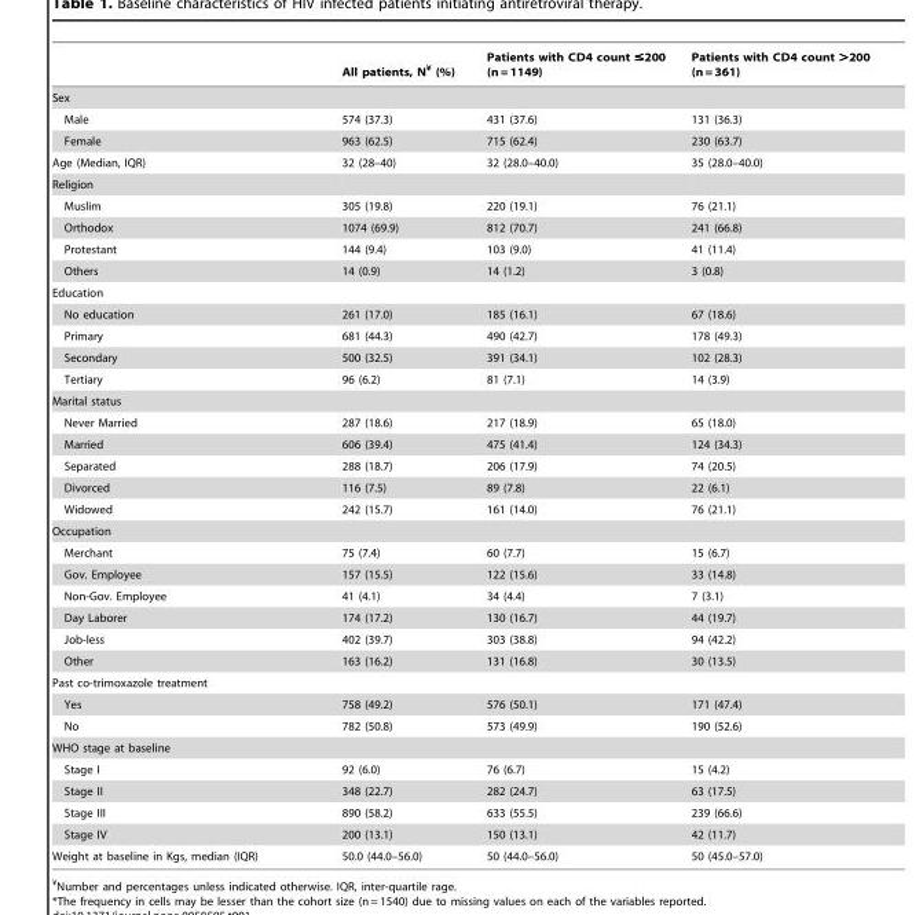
<table><thead><tr><td></td><td>All patients, N¥ (%)</td><td>Patients with CD4 count ≤200 (n = 1149)</td><td>Patients with CD4 count &gt;200 (n = 361)</td></tr></thead><tbody><tr><td colspan="4">Sex</td></tr><tr><td>Male</td><td>574 (37.3)</td><td>431 (37.6)</td><td>131 (36.3)</td></tr><tr><td>Female</td><td>963 (62.5)</td><td>715 (62.4)</td><td>230 (63.7)</td></tr><tr><td>Age (Median, IQR)</td><td>32 (28–40)</td><td>32 (28.0–40.0)</td><td>35 (28.0–40.0)</td></tr><tr><td colspan="4">Religion</td></tr><tr><td>Muslim</td><td>305 (19.8)</td><td>220 (19.1)</td><td>76 (21.1)</td></tr><tr><td>Orthodox</td><td>1074 (69.9)</td><td>812 (70.7)</td><td>241 (66.8)</td></tr><tr><td>Protestant</td><td>144 (9.4)</td><td>103 (9.0)</td><td>41 (11.4)</td></tr><tr><td>Others</td><td>14 (0.9)</td><td>14 (1.2)</td><td>3 (0.8)</td></tr><tr><td colspan="4">Education</td></tr><tr><td>No education</td><td>261 (17.0)</td><td>185 (16.1)</td><td>67 (18.6)</td></tr><tr><td>Primary</td><td>681 (44.3)</td><td>490 (42.7)</td><td>178 (49.3)</td></tr><tr><td>Secondary</td><td>500 (32.5)</td><td>391 (34.1)</td><td>102 (28.3)</td></tr><tr><td>Tertiary</td><td>96 (6.2)</td><td>81 (7.1)</td><td>14 (3.9)</td></tr><tr><td colspan="4">Marital status</td></tr><tr><td>Never Married</td><td>287 (18.6)</td><td>217 (18.9)</td><td>65 (18.0)</td></tr><tr><td>Married</td><td>606 (39.4)</td><td>475 (41.4)</td><td>124 (34.3)</td></tr><tr><td>Separated</td><td>288 (18.7)</td><td>206 (17.9)</td><td>74 (20.5)</td></tr><tr><td>Divorced</td><td>116 (7.5)</td><td>89 (7.8)</td><td>22 (6.1)</td></tr><tr><td>Widowed</td><td>242 (15.7)</td><td>161 (14.0)</td><td>76 (21.1)</td></tr><tr><td colspan="4">Occupation</td></tr><tr><td>Merchant</td><td>75 (7.4)</td><td>60 (7.7)</td><td>15 (6.7)</td></tr><tr><td>Gov. Employee</td><td>157 (15.5)</td><td>122 (15.6)</td><td>33 (14.8)</td></tr><tr><td>Non-Gov. Employee</td><td>41 (4.1)</td><td>34 (4.4)</td><td>7 (3.1)</td></tr><tr><td>Day Laborer</td><td>174 (17.2)</td><td>130 (16.7)</td><td>44 (19.7)</td></tr><tr><td>Job-less</td><td>402 (39.7)</td><td>303 (38.8)</td><td>94 (42.2)</td></tr><tr><td>Other</td><td>163 (16.2)</td><td>131 (16.8)</td><td>30 (13.5)</td></tr><tr><td colspan="4">Past co-trimoxazole treatment</td></tr><tr><td>Yes</td><td>758 (49.2)</td><td>576 (50.1)</td><td>171 (47.4)</td></tr><tr><td>No</td><td>782 (50.8)</td><td>573 (49.9)</td><td>190 (52.6)</td></tr><tr><td colspan="4">WHO stage at baseline</td></tr><tr><td>Stage I</td><td>92 (6.0)</td><td>76 (6.7)</td><td>15 (4.2)</td></tr><tr><td>Stage II</td><td>348 (22.7)</td><td>282 (24.7)</td><td>63 (17.5)</td></tr><tr><td>Stage III</td><td>890 (58.2)</td><td>633 (55.5)</td><td>239 (66.6)</td></tr><tr><td>Stage IV</td><td>200 (13.1)</td><td>150 (13.1)</td><td>42 (11.7)</td></tr><tr><td>Weight at baseline in Kgs, median (IQR)</td><td>50.0 (44.0–56.0)</td><td>50 (44.0–56.0)</td><td>50 (45.0–57.0)</td></tr></tbody></table>